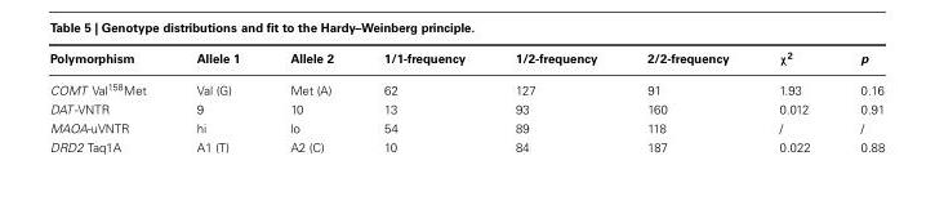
<table><thead><tr><td>Polymorphism</td><td>Allele 1</td><td>Allele 2</td><td>1/1-frequency</td><td>1/2-frequency</td><td>2/2-frequency</td><td>χ<sup>2</sup></td><td>p</td></tr></thead><tbody><tr><td>COMT Val<sup>158</sup>Met</td><td>Val (G)</td><td>Met (A)</td><td>62</td><td>127</td><td>91</td><td>1.93</td><td>0.16</td></tr><tr><td>DAT-VNTR</td><td>9</td><td>10</td><td>13</td><td>93</td><td>160</td><td>0.012</td><td>0.91</td></tr><tr><td>MAOA-uVNTR</td><td>hi</td><td>lo</td><td>54</td><td>89</td><td>118</td><td>/</td><td>/</td></tr><tr><td>DRD2 Taq1A</td><td>A1 (T)</td><td>A2 (C)</td><td>10</td><td>84</td><td>187</td><td>0.022</td><td>0.88</td></tr></tbody></table>